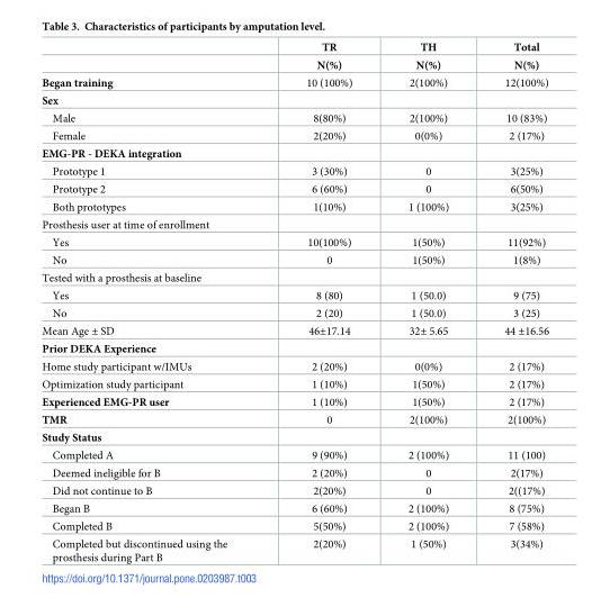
<table><thead><tr><td rowspan="2"></td><td rowspan="2">TR N(%)</td><td rowspan="2">TH N(%)</td><td rowspan="2">Total N(%)</td></tr><tr></tr></thead><tbody><tr><td>Began training</td><td>10 (100%)</td><td>2(100%)</td><td>12(100%)</td></tr><tr><td colspan="4">Sex</td></tr><tr><td>Male</td><td>8(80%)</td><td>2(100%)</td><td>10 (83%)</td></tr><tr><td>Female</td><td>2(20%)</td><td>0(0%)</td><td>2 (17%)</td></tr><tr><td colspan="4">EMG-PR - DEKA integration</td></tr><tr><td>Prototype 1</td><td>3 (30%)</td><td>0</td><td>3(25%)</td></tr><tr><td>Prototype 2</td><td>6 (60%)</td><td>0</td><td>6(50%)</td></tr><tr><td>Both prototypes</td><td>1(10%)</td><td>1 (100%)</td><td>3(25%)</td></tr><tr><td colspan="4">Prosthesis user at time of enrollment</td></tr><tr><td>Yes</td><td>10(100%)</td><td>1(50%)</td><td>11(92%)</td></tr><tr><td>No</td><td>0</td><td>1(50%)</td><td>1(8%)</td></tr><tr><td colspan="4">Tested with a prosthesis at baseline</td></tr><tr><td>Yes</td><td>8 (80)</td><td>1 (50.0)</td><td>9 (75)</td></tr><tr><td>No</td><td>2 (20)</td><td>1 (50.0)</td><td>3 (25)</td></tr><tr><td>Mean Age ± SD</td><td>46±17.14</td><td>32± 5.65</td><td>44 ±16.56</td></tr><tr><td colspan="4">Prior DEKA Experience</td></tr><tr><td>Home study participant w/IMUs</td><td>2 (20%)</td><td>0(0%)</td><td>2 (17%)</td></tr><tr><td>Optimization study participant</td><td>1 (10%)</td><td>1(50%)</td><td>2 (17%)</td></tr><tr><td>Experienced EMG-PR user</td><td>1 (10%)</td><td>1(50%)</td><td>2 (17%)</td></tr><tr><td>TMR</td><td>0</td><td>2(100%)</td><td>2(100%)</td></tr><tr><td colspan="4">Study Status</td></tr><tr><td>Completed A</td><td>9 (90%)</td><td>2 (100%)</td><td>11 (100)</td></tr><tr><td>Deemed ineligible for B</td><td>2 (20%)</td><td>0</td><td>2(17%)</td></tr><tr><td>Did not continue to B</td><td>2(20%)</td><td>0</td><td>2((17%)</td></tr><tr><td>Began B</td><td>6 (60%)</td><td>2 (100%)</td><td>8 (75%)</td></tr><tr><td>Completed B</td><td>5(50%)</td><td>2 (100%)</td><td>7 (58%)</td></tr><tr><td>Completed but discontinued using the prosthesis during Part B</td><td>2(20%)</td><td>1 (50%)</td><td>3(34%)</td></tr></tbody></table>